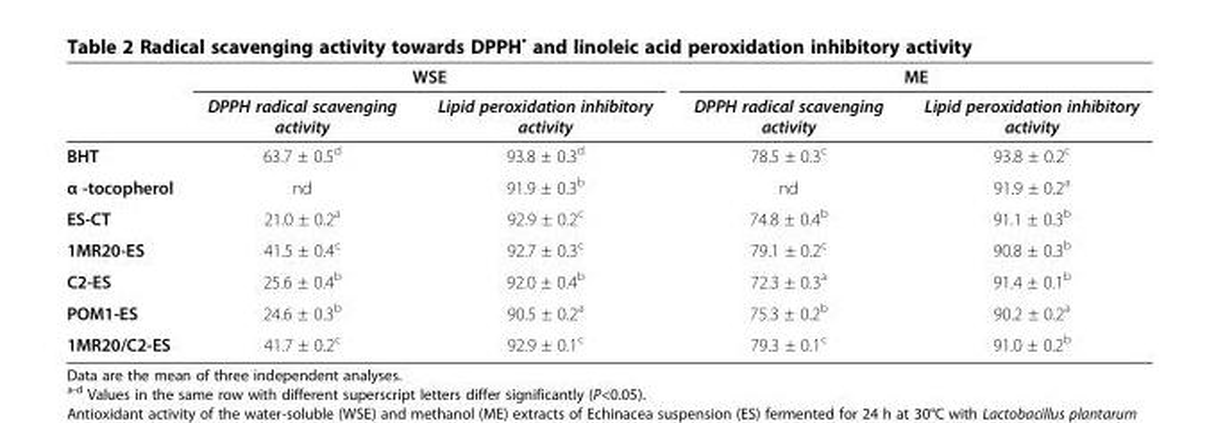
<table><thead><tr><td rowspan="2"></td><td colspan="2">WSE</td><td colspan="2">ME</td></tr><tr><td>DPPH radical scavenging activity</td><td>Lipid peroxidation inhibitory activity</td><td>DPPH radical scavenging activity</td><td>Lipid peroxidation inhibitory activity</td></tr></thead><tbody><tr><td>BHT</td><td>63.7 ± 0.5<sup>d</sup></td><td>93.8 ± 0.3<sup>d</sup></td><td>78.5 ± 0.3<sup>c</sup></td><td>93.8 ± 0.2<sup>c</sup></td></tr><tr><td>α -tocopherol</td><td>nd</td><td>91.9 ± 0.3<sup>b</sup></td><td>nd</td><td>91.9 ± 0.2<sup>a</sup></td></tr><tr><td>ES-CT</td><td>21.0 ± 0.2<sup>a</sup></td><td>92.9 ± 0.2<sup>c</sup></td><td>74.8 ± 0.4<sup>b</sup></td><td>91.1 ± 0.3<sup>b</sup></td></tr><tr><td>1MR20-ES</td><td>41.5 ± 0.4<sup>c</sup></td><td>92.7 ± 0.3<sup>c</sup></td><td>79.1 ± 0.2<sup>c</sup></td><td>90.8 ± 0.3<sup>b</sup></td></tr><tr><td>C2-ES</td><td>25.6 ± 0.4<sup>b</sup></td><td>92.0 ± 0.4<sup>b</sup></td><td>72.3 ± 0.3<sup>a</sup></td><td>91.4 ± 0.1<sup>b</sup></td></tr><tr><td>POM1-ES</td><td>24.6 ± 0.3<sup>b</sup></td><td>90.5 ± 0.2<sup>a</sup></td><td>75.3 ± 0.2<sup>b</sup></td><td>90.2 ± 0.2<sup>a</sup></td></tr><tr><td>1MR20/C2-ES</td><td>41.7 ± 0.2<sup>c</sup></td><td>92.9 ± 0.1<sup>c</sup></td><td>79.3 ± 0.1<sup>c</sup></td><td>91.0 ± 0.2<sup>b</sup></td></tr></tbody></table>